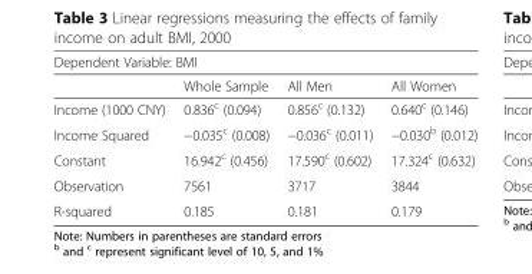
<table><thead><tr><td colspan="4">Dependent Variable: BMI</td></tr><tr><td></td><td>Whole Sample</td><td>All Men</td><td>All Women</td></tr></thead><tbody><tr><td>Income (1000 CNY)</td><td>0.836<sup>c</sup> (0.094)</td><td>0.856<sup>c</sup> (0.132)</td><td>0.640<sup>c</sup> (0.146)</td></tr><tr><td>Income Squared</td><td>−0.035<sup>c</sup> (0.008)</td><td>−0.036<sup>c</sup> (0.011)</td><td>−0.030<sup>b</sup> (0.012)</td></tr><tr><td>Constant</td><td>16.942<sup>c</sup> (0.456)</td><td>17.590<sup>c</sup> (0.602)</td><td>17.324<sup>c</sup> (0.632)</td></tr><tr><td>Observation</td><td>7561</td><td>3717</td><td>3844</td></tr><tr><td>R-squared</td><td>0.185</td><td>0.181</td><td>0.179</td></tr></tbody></table>